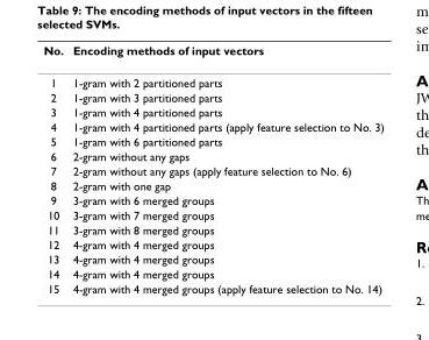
<table><thead><tr><td>No.</td><td>Encoding methods of input vectors</td></tr></thead><tbody><tr><td>1</td><td>1-gram with 2 partitioned parts</td></tr><tr><td>2</td><td>1-gram with 3 partitioned parts</td></tr><tr><td>3</td><td>1-gram with 4 partitioned parts</td></tr><tr><td>4</td><td>1-gram with 4 partitioned parts (apply feature selection to No. 3)</td></tr><tr><td>5</td><td>1-gram with 6 partitioned parts</td></tr><tr><td>6</td><td>2-gram without any gaps</td></tr><tr><td>7</td><td>2-gram without any gaps (apply feature selection to No. 6)</td></tr><tr><td>8</td><td>2-gram with one gap</td></tr><tr><td>9</td><td>3-gram with 6 merged groups</td></tr><tr><td>10</td><td>3-gram with 7 merged groups</td></tr><tr><td>11</td><td>3-gram with 8 merged groups</td></tr><tr><td>12</td><td>4-gram with 4 merged groups</td></tr><tr><td>13</td><td>4-gram with 4 merged groups</td></tr><tr><td>14</td><td>4-gram with 4 merged groups</td></tr><tr><td>15</td><td>4-gram with 4 merged groups (apply feature selection to No. 14)</td></tr></tbody></table>